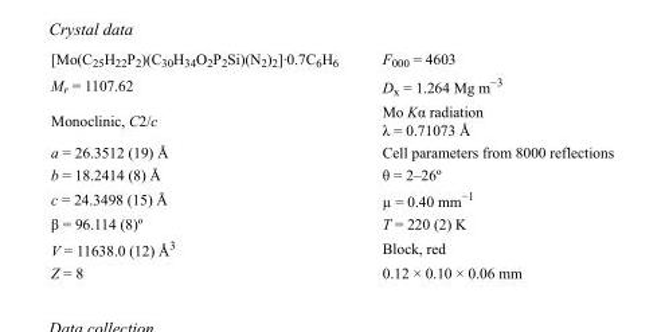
<table><tbody><tr><td>[Mo(C<sub>25</sub>H<sub>22</sub>P<sub>2</sub>)(C<sub>30</sub>H<sub>34</sub>O<sub>2</sub>P<sub>2</sub>Si)(N<sub>2</sub>)<sub>2</sub>]·0.7C<sub>6</sub>H<sub>6</sub></td><td>F000 = 4603</td></tr><tr><td>M<sub>r</sub> = 1107.62</td><td>D<sub>x</sub> = 1.264 Mg m<sup>−3</sup></td></tr><tr><td>Monoclinic, C2/c</td><td>Mo Kα radiation λ = 0.71073 Å</td></tr><tr><td>a = 26.3512 (19) Å</td><td>Cell parameters from 8000 reflections</td></tr><tr><td>b = 18.2414 (8) Å</td><td>θ = 2–26º</td></tr><tr><td>c = 24.3498 (15) Å</td><td>µ = 0.40 mm<sup>−1</sup></td></tr><tr><td>β = 96.114 (8)º</td><td>T = 220 (2) K</td></tr><tr><td>V = 11638.0 (12) Å<sup>3</sup></td><td>Block, red</td></tr><tr><td>Z = 8</td><td>0.12 × 0.10 × 0.06 mm</td></tr></tbody></table>